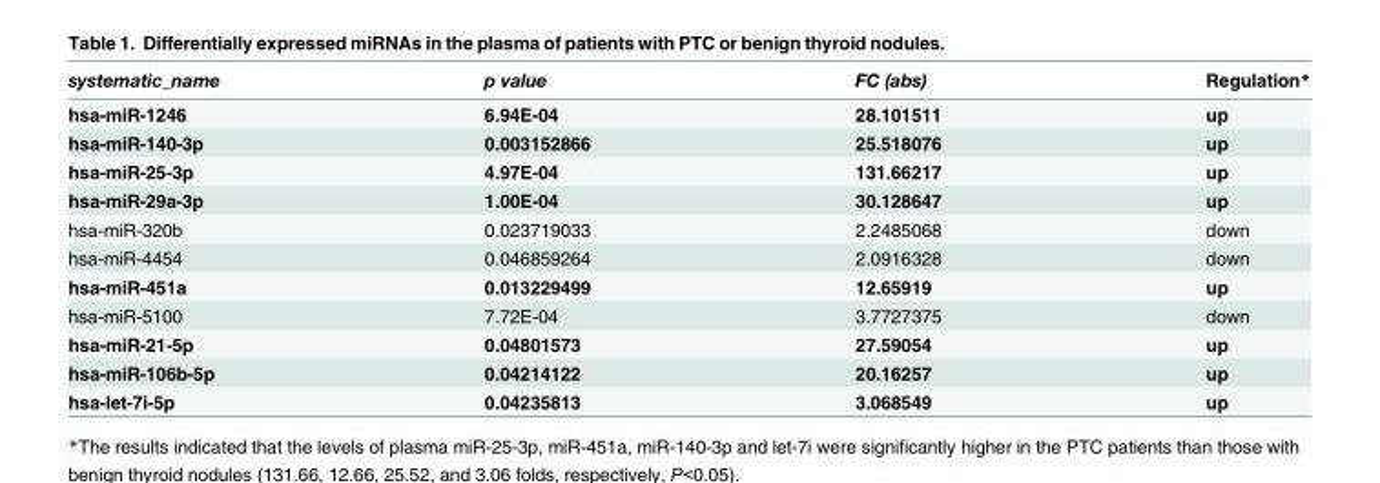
<table><thead><tr><td>systematic_name</td><td>p value</td><td>FC (abs)</td><td>Regulation*</td></tr></thead><tbody><tr><td>hsa-miR-1246</td><td>6.94E-04</td><td>28.101511</td><td>up</td></tr><tr><td>hsa-miR-140-3p</td><td>0.003152866</td><td>25.518076</td><td>up</td></tr><tr><td>hsa-miR-25-3p</td><td>4.97E-04</td><td>131.66217</td><td>up</td></tr><tr><td>hsa-miR-29a-3p</td><td>1.00E-04</td><td>30.128647</td><td>up</td></tr><tr><td>hsa-miR-320b</td><td>0.023719033</td><td>2.2485068</td><td>down</td></tr><tr><td>hsa-miR-4454</td><td>0.046859264</td><td>2.0916328</td><td>down</td></tr><tr><td>hsa-miR-451a</td><td>0.013229499</td><td>12.65919</td><td>up</td></tr><tr><td>hsa-miR-5100</td><td>7.72E-04</td><td>3.7727375</td><td>down</td></tr><tr><td>hsa-miR-21-5p</td><td>0.04801573</td><td>27.59054</td><td>up</td></tr><tr><td>hsa-miR-106b-5p</td><td>0.04214122</td><td>20.16257</td><td>up</td></tr><tr><td>hsa-let-7i-5p</td><td>0.04235813</td><td>3.068549</td><td>up</td></tr></tbody></table>